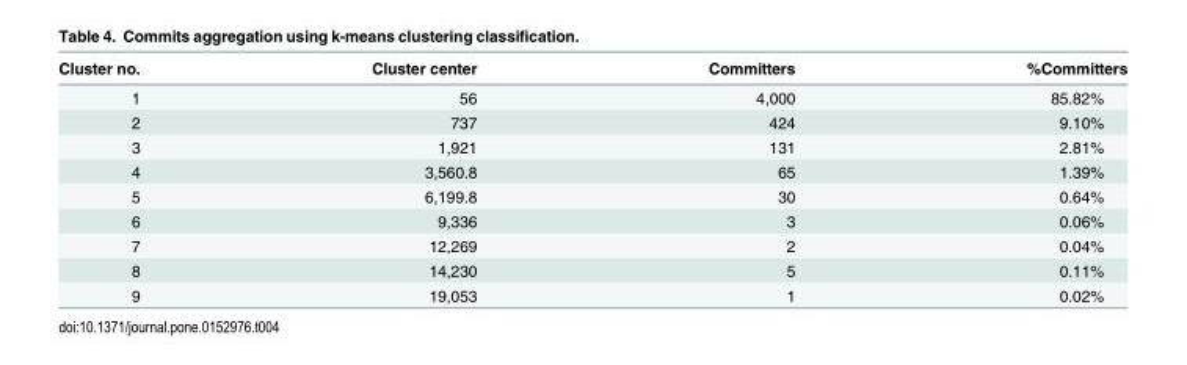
<table><thead><tr><td>Cluster no.</td><td>Cluster center</td><td>Committers</td><td>%Committers</td></tr></thead><tbody><tr><td>1</td><td>56</td><td>4,000</td><td>85.82%</td></tr><tr><td>2</td><td>737</td><td>424</td><td>9.10%</td></tr><tr><td>3</td><td>1,921</td><td>131</td><td>2.81%</td></tr><tr><td>4</td><td>3,560.8</td><td>65</td><td>1.39%</td></tr><tr><td>5</td><td>6,199.8</td><td>30</td><td>0.64%</td></tr><tr><td>6</td><td>9,336</td><td>3</td><td>0.06%</td></tr><tr><td>7</td><td>12,269</td><td>2</td><td>0.04%</td></tr><tr><td>8</td><td>14,230</td><td>5</td><td>0.11%</td></tr><tr><td>9</td><td>19,053</td><td>1</td><td>0.02%</td></tr></tbody></table>